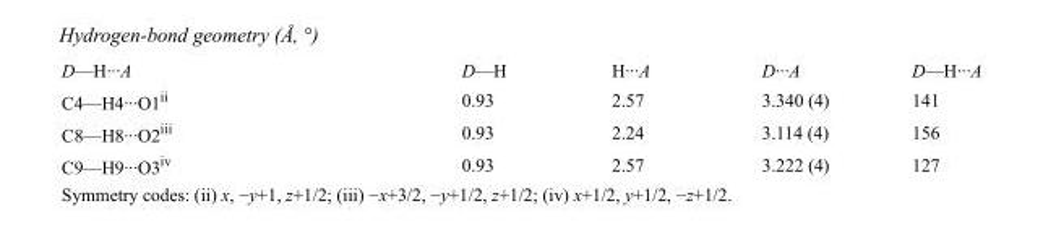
<table><tbody><tr><td>D—H···A</td><td>D—H</td><td>H···A</td><td>D···A</td><td>D—H···A</td></tr><tr><td>C4—H4···O1<sup>ii</sup></td><td>0.93</td><td>2.57</td><td>3.340 (4)</td><td>141</td></tr><tr><td>C8—H8···O2<sup>iii</sup></td><td>0.93</td><td>2.24</td><td>3.114 (4)</td><td>156</td></tr><tr><td>C9—H9···O3<sup>iv</sup></td><td>0.93</td><td>2.57</td><td>3.222 (4)</td><td>127</td></tr></tbody></table>